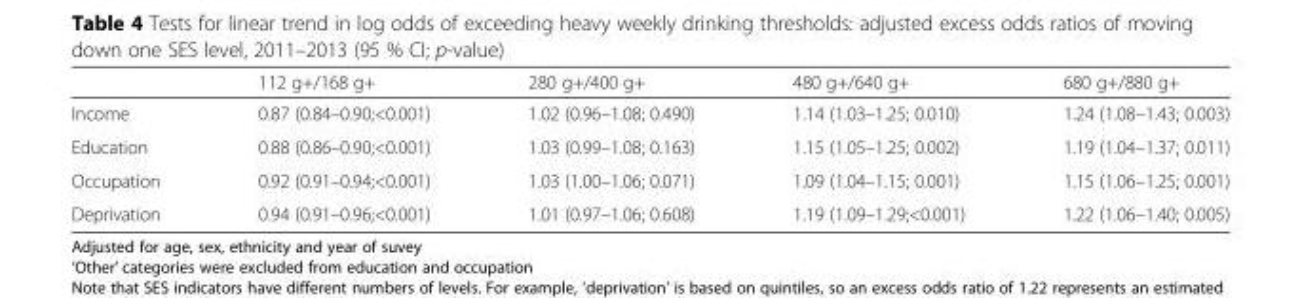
<table><thead><tr><td></td><td>112 g+/168 g+</td><td>280 g+/400 g+</td><td>480 g+/640 g+</td><td>680 g+/880 g+</td></tr></thead><tbody><tr><td>Income</td><td>0.87 (0.84–0.90;&lt;0.001)</td><td>1.02 (0.96–1.08; 0.490)</td><td>1.14 (1.03–1.25; 0.010)</td><td>1.24 (1.08–1.43; 0.003)</td></tr><tr><td>Education</td><td>0.88 (0.86–0.90;&lt;0.001)</td><td>1.03 (0.99–1.08; 0.163)</td><td>1.15 (1.05–1.25; 0.002)</td><td>1.19 (1.04–1.37; 0.011)</td></tr><tr><td>Occupation</td><td>0.92 (0.91–0.94;&lt;0.001)</td><td>1.03 (1.00–1.06; 0.071)</td><td>1.09 (1.04–1.15; 0.001)</td><td>1.15 (1.06–1.25; 0.001)</td></tr><tr><td>Deprivation</td><td>0.94 (0.91–0.96;&lt;0.001)</td><td>1.01 (0.97–1.06; 0.608)</td><td>1.19 (1.09–1.29;&lt;0.001)</td><td>1.22 (1.06–1.40; 0.005)</td></tr></tbody></table>